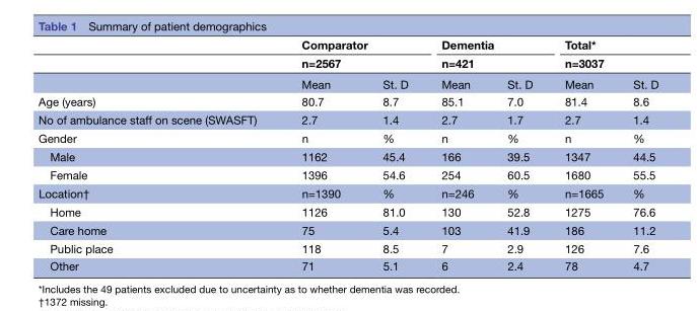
<table><thead><tr><td rowspan="3"></td><td rowspan="2" colspan="2">Comparator n=2567</td><td rowspan="2" colspan="2">Dementia n=421</td><td rowspan="2" colspan="2">Total* n=3037</td></tr><tr></tr><tr><td>Mean</td><td>St. D</td><td>Mean</td><td>St. D</td><td>Mean</td><td>St. D</td></tr></thead><tbody><tr><td>Age (years)</td><td>80.7</td><td>8.7</td><td>85.1</td><td>7.0</td><td>81.4</td><td>8.6</td></tr><tr><td>No of ambulance staff on scene (SWASFT)</td><td>2.7</td><td>1.4</td><td>2.7</td><td>1.7</td><td>2.7</td><td>1.4</td></tr><tr><td>Gender</td><td>n</td><td>%</td><td>n</td><td>%</td><td>n</td><td>%</td></tr><tr><td>Male</td><td>1162</td><td>45.4</td><td>166</td><td>39.5</td><td>1347</td><td>44.5</td></tr><tr><td>Female</td><td>1396</td><td>54.6</td><td>254</td><td>60.5</td><td>1680</td><td>55.5</td></tr><tr><td>Location†</td><td>n=1390</td><td>%</td><td>n=246</td><td>%</td><td>n=1665</td><td>%</td></tr><tr><td>Home</td><td>1126</td><td>81.0</td><td>130</td><td>52.8</td><td>1275</td><td>76.6</td></tr><tr><td>Care home</td><td>75</td><td>5.4</td><td>103</td><td>41.9</td><td>186</td><td>11.2</td></tr><tr><td>Public place</td><td>118</td><td>8.5</td><td>7</td><td>2.9</td><td>126</td><td>7.6</td></tr><tr><td>Other</td><td>71</td><td>5.1</td><td>6</td><td>2.4</td><td>78</td><td>4.7</td></tr></tbody></table>